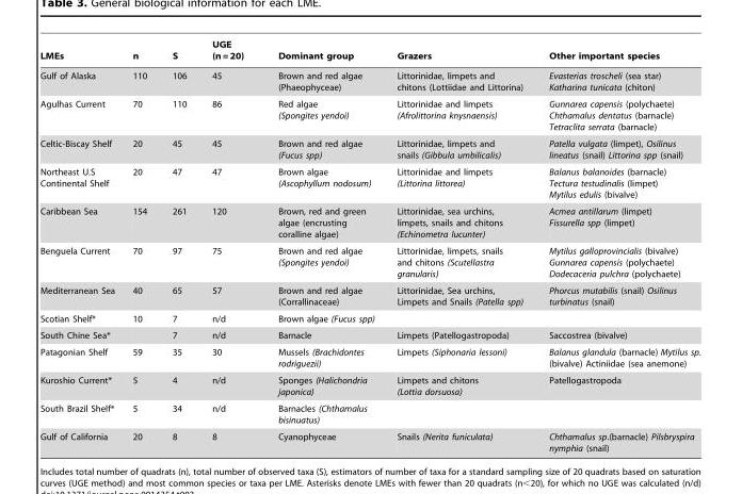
<table><thead><tr><td>LMEs</td><td>n</td><td>S</td><td>UGE (n = 20)</td><td>Dominant group</td><td>Grazers</td><td>Other important species</td></tr></thead><tbody><tr><td>Gulf of Alaska</td><td>110</td><td>106</td><td>45</td><td>Brown and red algae (Phaeophyceae)</td><td>Littorinidae, limpets and chitons (Lottiidae and Littorina)</td><td>Evasterias troscheli (sea star) Katharina tunicata (chiton)</td></tr><tr><td>Agulhas Current</td><td>70</td><td>110</td><td>86</td><td>Red algae (Spongites yendoi)</td><td>Littorinidae and limpets (Afrolittorina knysnaensis)</td><td>Gunnarea capensis (polychaete) Chthamalus dentatus (barnacle) Tetraclita serrata (barnacle)</td></tr><tr><td>Celtic-Biscay Shelf</td><td>20</td><td>45</td><td>45</td><td>Brown and red algae (Fucus spp)</td><td>Littorinidae, limpets and snails (Gibbula umbilicalis)</td><td>Patella vulgata (limpet), Osilinus lineatus (snail) Littorina spp (snail)</td></tr><tr><td>Northeast U.S Continental Shelf</td><td>20</td><td>47</td><td>47</td><td>Brown algae (Ascophyllum nodosum)</td><td>Littorinidae and limpets (Littorina littorea)</td><td>Balanus balanoides (barnacle) Tectura testudinalis (limpet) Mytilus edulis (bivalve)</td></tr><tr><td>Caribbean Sea</td><td>154</td><td>261</td><td>120</td><td>Brown, red and green algae (encrusting coralline algae)</td><td>Littorinidae, sea urchins, limpets, snails and chitons (Echinometra lucunter)</td><td>Acmea antillarum (limpet) Fissurella spp (limpet)</td></tr><tr><td>Benguela Current</td><td>70</td><td>97</td><td>75</td><td>Brown and red algae (Spongites yendoi)</td><td>Littorinidae, limpets, snails and chitons (Scutellastra granularis)</td><td>Mytilus galloprovincialis (bivalve) Gunnarea capensis (polychaete) Dodecaceria pulchra (polychaete)</td></tr><tr><td>Mediterranean Sea</td><td>40</td><td>65</td><td>57</td><td>Brown and red algae (Corrallinaceae)</td><td>Littorinidae, Sea urchins, Limpets and Snails (Patella spp)</td><td>Phorcus mutabilis (snail) Osilinus turbinatus (snail)</td></tr><tr><td>Scotian Shelf*</td><td>10</td><td>7</td><td>n/d</td><td>Brown algae (Fucus spp)</td><td></td><td></td></tr><tr><td>South Chine Sea*</td><td></td><td>7</td><td>n/d</td><td>Barnacle</td><td>Limpets (Patellogastropoda)</td><td>Saccostrea (bivalve)</td></tr><tr><td>Patagonian Shelf</td><td>59</td><td>35</td><td>30</td><td>Mussels (Brachidontes rodriguezii)</td><td>Limpets (Siphonaria lessoni)</td><td>Balanus glandula (barnacle) Mytilus sp. (bivalve) Actiniidae (sea anemone)</td></tr><tr><td>Kuroshio Current*</td><td>5</td><td>4</td><td>n/d</td><td>Sponges (Halichondria japonica)</td><td>Limpets and chitons (Lottia dorsuosa)</td><td>Patellogastropoda</td></tr><tr><td>South Brazil Shelf*</td><td>5</td><td>34</td><td>n/d</td><td>Barnacles (Chthamalus bisinuatus)</td><td></td><td></td></tr><tr><td>Gulf of California</td><td>20</td><td>8</td><td>8</td><td>Cyanophyceae</td><td>Snails (Nerita funiculata)</td><td>Chthamalus sp.(barnacle) Pilsbryspira nymphia (snail)</td></tr></tbody></table>